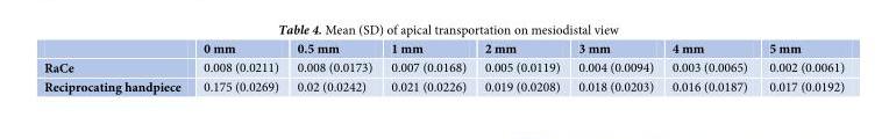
<table><thead><tr><td></td><td>0 mm</td><td>0.5 mm</td><td>1 mm</td><td>2 mm</td><td>3 mm</td><td>4 mm</td><td>5 mm</td></tr></thead><tbody><tr><td>RaCe</td><td>0.008 (0.0211)</td><td>0.008 (0.0173)</td><td>0.007 (0.0168)</td><td>0.005 (0.0119)</td><td>0.004 (0.0094)</td><td>0.003 (0.0065)</td><td>0.002 (0.0061)</td></tr><tr><td>Reciprocating handpiece</td><td>0.175 (0.0269)</td><td>0.02 (0.0242)</td><td>0.021 (0.0226)</td><td>0.019 (0.0208)</td><td>0.018 (0.0203)</td><td>0.016 (0.0187)</td><td>0.017 (0.0192)</td></tr></tbody></table>